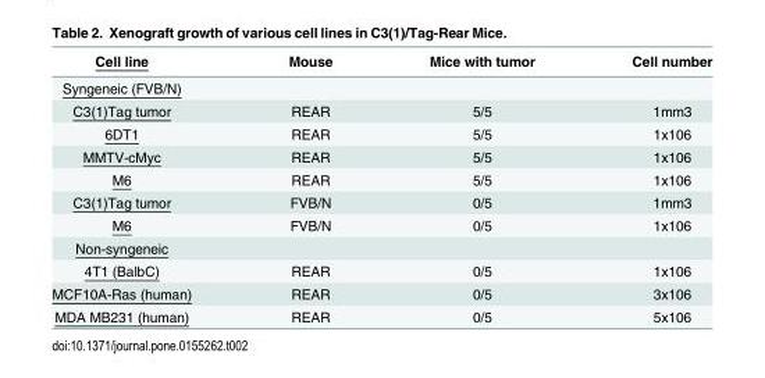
<table><thead><tr><td>Cell line</td><td>Mouse</td><td>Mice with tumor</td><td>Cell number</td></tr></thead><tbody><tr><td colspan="4">Syngeneic (FVB/N)</td></tr><tr><td>C3(1)Tag tumor</td><td>REAR</td><td>5/5</td><td>1mm3</td></tr><tr><td>6DT1</td><td>REAR</td><td>5/5</td><td>1x106</td></tr><tr><td>MMTV-cMyc</td><td>REAR</td><td>5/5</td><td>1x106</td></tr><tr><td>M6</td><td>REAR</td><td>5/5</td><td>1x106</td></tr><tr><td>C3(1)Tag tumor</td><td>FVB/N</td><td>0/5</td><td>1mm3</td></tr><tr><td>M6</td><td>FVB/N</td><td>0/5</td><td>1x106</td></tr><tr><td colspan="4">Non-syngeneic</td></tr><tr><td>4T1 (BalbC)</td><td>REAR</td><td>0/5</td><td>1x106</td></tr><tr><td>MCF10A-Ras (human)</td><td>REAR</td><td>0/5</td><td>3x106</td></tr><tr><td>MDA MB231 (human)</td><td>REAR</td><td>0/5</td><td>5x106</td></tr></tbody></table>